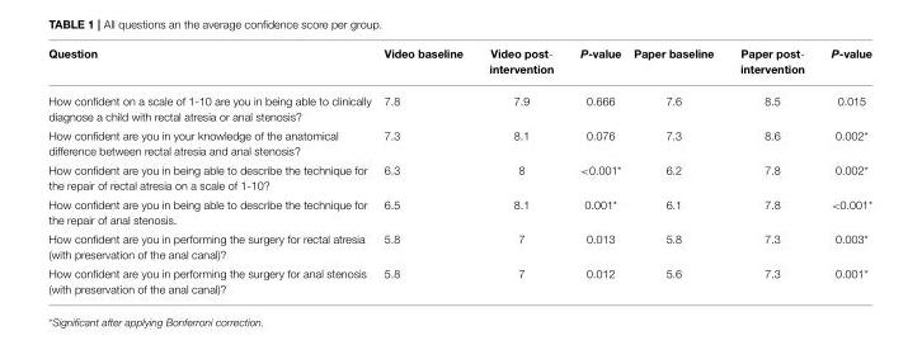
<table><thead><tr><td>Question</td><td>Video baseline</td><td>Video post- intervention</td><td>P-value</td><td>Paper baseline</td><td>Paper post- intervention</td><td>P-value</td></tr></thead><tbody><tr><td>How confident on a scale of 1-10 are you in being able to clinically diagnose a child with rectal atresia or anal stenosis?</td><td>7.8</td><td>7.9</td><td>0.666</td><td>7.6</td><td>8.5</td><td>0.015</td></tr><tr><td>How confident are you in your knowledge of the anatomical difference between rectal atresia and anal stenosis?</td><td>7.3</td><td>8.1</td><td>0.076</td><td>7.3</td><td>8.6</td><td>0.002*</td></tr><tr><td>How confident are you in being able to describe the technique for the repair of rectal atresia on a scale of 1-10?</td><td>6.3</td><td>8</td><td>&lt;0.001*</td><td>6.2</td><td>7.8</td><td>0.002*</td></tr><tr><td>How confident are you in being able to describe the technique for the repair of anal stenosis.</td><td>6.5</td><td>8.1</td><td>0.001*</td><td>6.1</td><td>7.8</td><td>&lt;0.001*</td></tr><tr><td>How confident are you in performing the surgery for rectal atresia (with preservation of the anal canal)?</td><td>5.8</td><td>7</td><td>0.013</td><td>5.8</td><td>7.3</td><td>0.003*</td></tr><tr><td>How confident are you in performing the surgery for anal stenosis (with preservation of the anal canal)?</td><td>5.8</td><td>7</td><td>0.012</td><td>5.6</td><td>7.3</td><td>0.001*</td></tr></tbody></table>